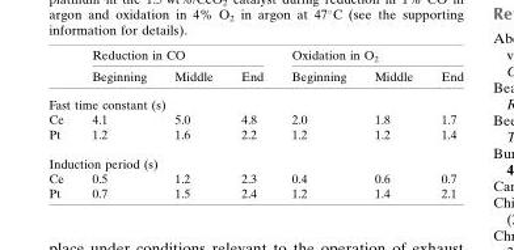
<table><thead><tr><td rowspan="2"></td><td colspan="3">Reduction in CO</td><td colspan="3">Oxidation in O<sub>2</sub></td></tr><tr><td>Beginning</td><td>Middle</td><td>End</td><td>Beginning</td><td>Middle</td><td>End</td></tr></thead><tbody><tr><td colspan="7">Fast time constant (s)</td></tr><tr><td>Ce</td><td>4.1</td><td>5.0</td><td>4.8</td><td>2.0</td><td>1.8</td><td>1.7</td></tr><tr><td>Pt</td><td>1.2</td><td>1.6</td><td>2.2</td><td>1.2</td><td>1.2</td><td>1.4</td></tr><tr><td colspan="7">Induction period (s)</td></tr><tr><td>Ce</td><td>0.5</td><td>1.2</td><td>2.3</td><td>0.4</td><td>0.6</td><td>0.7</td></tr><tr><td>Pt</td><td>0.7</td><td>1.5</td><td>2.4</td><td>1.2</td><td>1.4</td><td>2.1</td></tr></tbody></table>